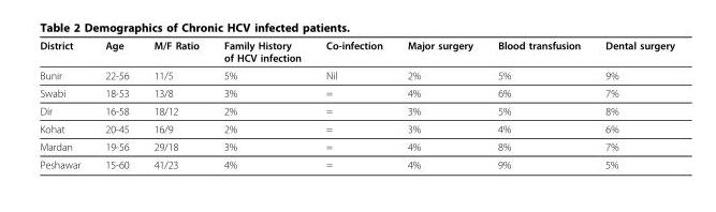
<table><thead><tr><td>District</td><td>Age</td><td>M/F Ratio</td><td>Family History of HCV infection</td><td>Co-infection</td><td>Major surgery</td><td>Blood transfusion</td><td>Dental surgery</td></tr></thead><tbody><tr><td>Bunir</td><td>22-56</td><td>11/5</td><td>5%</td><td>Nil</td><td>2%</td><td>5%</td><td>9%</td></tr><tr><td>Swabi</td><td>18-53</td><td>13/8</td><td>3%</td><td>=</td><td>4%</td><td>6%</td><td>7%</td></tr><tr><td>Dir</td><td>16-58</td><td>18/12</td><td>2%</td><td>=</td><td>3%</td><td>5%</td><td>8%</td></tr><tr><td>Kohat</td><td>20-45</td><td>16/9</td><td>2%</td><td>=</td><td>3%</td><td>4%</td><td>6%</td></tr><tr><td>Mardan</td><td>19-56</td><td>29/18</td><td>3%</td><td>=</td><td>4%</td><td>8%</td><td>7%</td></tr><tr><td>Peshawar</td><td>15-60</td><td>41/23</td><td>4%</td><td>=</td><td>4%</td><td>9%</td><td>5%</td></tr></tbody></table>